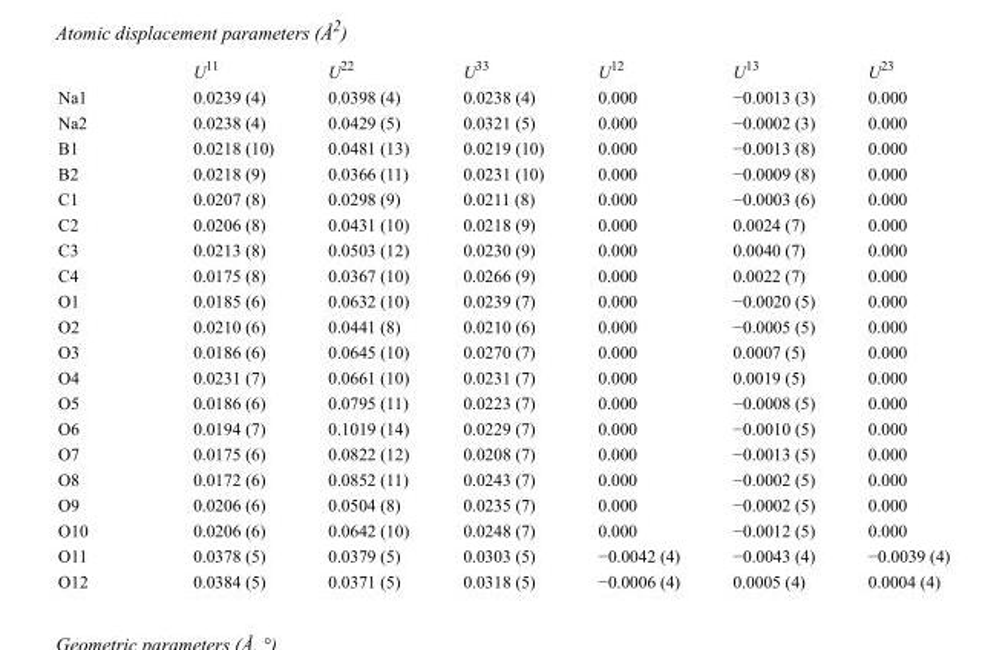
<table><thead><tr><td></td><td>U<sup>11</sup></td><td>U<sup>22</sup></td><td>U<sup>33</sup></td><td>U<sup>12</sup></td><td>U<sup>13</sup></td><td>U<sup>23</sup></td></tr></thead><tbody><tr><td>Na1</td><td>0.0239 (4)</td><td>0.0398 (4)</td><td>0.0238 (4)</td><td>0.000</td><td>−0.0013 (3)</td><td>0.000</td></tr><tr><td>Na2</td><td>0.0238 (4)</td><td>0.0429 (5)</td><td>0.0321 (5)</td><td>0.000</td><td>−0.0002 (3)</td><td>0.000</td></tr><tr><td>B1</td><td>0.0218 (10)</td><td>0.0481 (13)</td><td>0.0219 (10)</td><td>0.000</td><td>−0.0013 (8)</td><td>0.000</td></tr><tr><td>B2</td><td>0.0218 (9)</td><td>0.0366 (11)</td><td>0.0231 (10)</td><td>0.000</td><td>−0.0009 (8)</td><td>0.000</td></tr><tr><td>C1</td><td>0.0207 (8)</td><td>0.0298 (9)</td><td>0.0211 (8)</td><td>0.000</td><td>−0.0003 (6)</td><td>0.000</td></tr><tr><td>C2</td><td>0.0206 (8)</td><td>0.0431 (10)</td><td>0.0218 (9)</td><td>0.000</td><td>0.0024 (7)</td><td>0.000</td></tr><tr><td>C3</td><td>0.0213 (8)</td><td>0.0503 (12)</td><td>0.0230 (9)</td><td>0.000</td><td>0.0040 (7)</td><td>0.000</td></tr><tr><td>C4</td><td>0.0175 (8)</td><td>0.0367 (10)</td><td>0.0266 (9)</td><td>0.000</td><td>0.0022 (7)</td><td>0.000</td></tr><tr><td>O1</td><td>0.0185 (6)</td><td>0.0632 (10)</td><td>0.0239 (7)</td><td>0.000</td><td>−0.0020 (5)</td><td>0.000</td></tr><tr><td>O2</td><td>0.0210 (6)</td><td>0.0441 (8)</td><td>0.0210 (6)</td><td>0.000</td><td>−0.0005 (5)</td><td>0.000</td></tr><tr><td>O3</td><td>0.0186 (6)</td><td>0.0645 (10)</td><td>0.0270 (7)</td><td>0.000</td><td>0.0007 (5)</td><td>0.000</td></tr><tr><td>O4</td><td>0.0231 (7)</td><td>0.0661 (10)</td><td>0.0231 (7)</td><td>0.000</td><td>0.0019 (5)</td><td>0.000</td></tr><tr><td>O5</td><td>0.0186 (6)</td><td>0.0795 (11)</td><td>0.0223 (7)</td><td>0.000</td><td>−0.0008 (5)</td><td>0.000</td></tr><tr><td>O6</td><td>0.0194 (7)</td><td>0.1019 (14)</td><td>0.0229 (7)</td><td>0.000</td><td>−0.0010 (5)</td><td>0.000</td></tr><tr><td>O7</td><td>0.0175 (6)</td><td>0.0822 (12)</td><td>0.0208 (7)</td><td>0.000</td><td>−0.0013 (5)</td><td>0.000</td></tr><tr><td>O8</td><td>0.0172 (6)</td><td>0.0852 (11)</td><td>0.0243 (7)</td><td>0.000</td><td>−0.0002 (5)</td><td>0.000</td></tr><tr><td>O9</td><td>0.0206 (6)</td><td>0.0504 (8)</td><td>0.0235 (7)</td><td>0.000</td><td>−0.0002 (5)</td><td>0.000</td></tr><tr><td>O10</td><td>0.0206 (6)</td><td>0.0642 (10)</td><td>0.0248 (7)</td><td>0.000</td><td>−0.0012 (5)</td><td>0.000</td></tr><tr><td>O11</td><td>0.0378 (5)</td><td>0.0379 (5)</td><td>0.0303 (5)</td><td>−0.0042 (4)</td><td>−0.0043 (4)</td><td>−0.0039 (4)</td></tr><tr><td>O12</td><td>0.0384 (5)</td><td>0.0371 (5)</td><td>0.0318 (5)</td><td>−0.0006 (4)</td><td>0.0005 (4)</td><td>0.0004 (4)</td></tr></tbody></table>